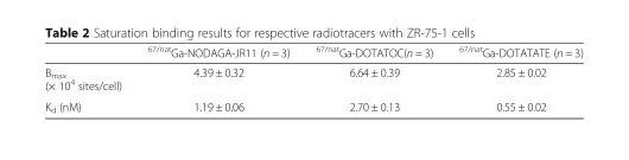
<table><thead><tr><td></td><td><sup>67/nat</sup>Ga-NODAGA-JR11 (n = 3)</td><td><sup>67/nat</sup>Ga-DOTATOC(n = 3)</td><td><sup>67/nat</sup>Ga-DOTATATE (n = 3)</td></tr></thead><tbody><tr><td>B<sub>max</sub> (× 10<sup>4</sup> sites/cell)</td><td>4.39 ± 0.32</td><td>6.64 ± 0.39</td><td>2.85 ± 0.02</td></tr><tr><td>K<sub>d</sub> (nM)</td><td>1.19 ± 0.06</td><td>2.70 ± 0.13</td><td>0.55 ± 0.02</td></tr></tbody></table>